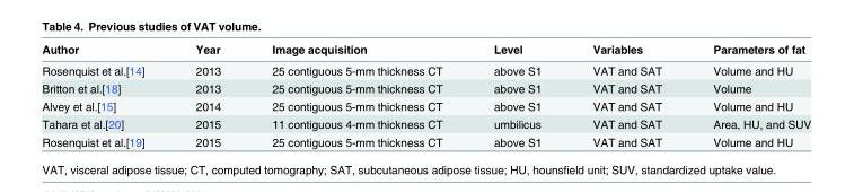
<table><thead><tr><td>Author</td><td>Year</td><td>Image acquisition</td><td>Level</td><td>Variables</td><td>Parameters of fat</td></tr></thead><tbody><tr><td>Rosenquist et al.[14]</td><td>2013</td><td>25 contiguous 5-mm thickness CT</td><td>above S1</td><td>VAT and SAT</td><td>Volume and HU</td></tr><tr><td>Britton et al.[18]</td><td>2013</td><td>25 contiguous 5-mm thickness CT</td><td>above S1</td><td>VAT and SAT</td><td>Volume</td></tr><tr><td>Alvey et al.[15]</td><td>2014</td><td>25 contiguous 5-mm thickness CT</td><td>above S1</td><td>VAT and SAT</td><td>Volume and HU</td></tr><tr><td>Tahara et al.[20]</td><td>2015</td><td>11 contiguous 4-mm thickness CT</td><td>umbilicus</td><td>VAT and SAT</td><td>Area, HU, and SUV</td></tr><tr><td>Rosenquist et al.[19]</td><td>2015</td><td>25 contiguous 5-mm thickness CT</td><td>above S1</td><td>VAT and SAT</td><td>Volume and HU</td></tr></tbody></table>